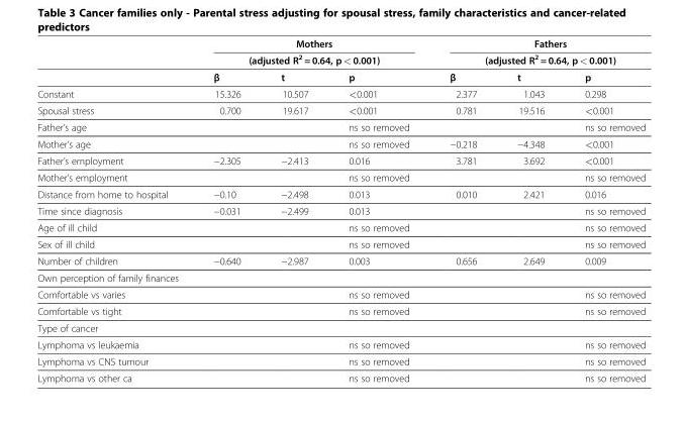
<table><thead><tr><td rowspan="3"></td><td rowspan="2" colspan="3">Mothers (adjusted R<sup>2</sup> = 0.64, p &lt; 0.001)</td><td rowspan="2" colspan="3">Fathers (adjusted R<sup>2</sup> = 0.64, p &lt; 0.001)</td></tr><tr></tr><tr><td>β</td><td>t</td><td>p</td><td>β</td><td>t</td><td>p</td></tr></thead><tbody><tr><td>Constant</td><td>15.326</td><td>10.507</td><td>&lt;0.001</td><td>2.377</td><td>1.043</td><td>0.298</td></tr><tr><td>Spousal stress</td><td>0.700</td><td>19.617</td><td>&lt;0.001</td><td>0.781</td><td>19.516</td><td>&lt;0.001</td></tr><tr><td>Father’s age</td><td></td><td></td><td>ns so removed</td><td></td><td></td><td>ns so removed</td></tr><tr><td>Mother’s age</td><td></td><td></td><td>ns so removed</td><td>−0.218</td><td>−4.348</td><td>&lt;0.001</td></tr><tr><td>Father’s employment</td><td>−2.305</td><td>−2.413</td><td>0.016</td><td>3.781</td><td>3.692</td><td>&lt;0.001</td></tr><tr><td>Mother’s employment</td><td></td><td></td><td>ns so removed</td><td></td><td></td><td>ns so removed</td></tr><tr><td>Distance from home to hospital</td><td>−0.10</td><td>−2.498</td><td>0.013</td><td>0.010</td><td>2.421</td><td>0.016</td></tr><tr><td>Time since diagnosis</td><td>−0.031</td><td>−2.499</td><td>0.013</td><td></td><td></td><td>ns so removed</td></tr><tr><td>Age of ill child</td><td></td><td></td><td>ns so removed</td><td></td><td></td><td>ns so removed</td></tr><tr><td>Sex of ill child</td><td></td><td></td><td>ns so removed</td><td></td><td></td><td>ns so removed</td></tr><tr><td>Number of children</td><td>−0.640</td><td>−2.987</td><td>0.003</td><td>0.656</td><td>2.649</td><td>0.009</td></tr><tr><td colspan="7">Own perception of family finances</td></tr><tr><td>Comfortable vs varies</td><td></td><td></td><td>ns so removed</td><td></td><td></td><td>ns so removed</td></tr><tr><td>Comfortable vs tight</td><td></td><td></td><td>ns so removed</td><td></td><td></td><td>ns so removed</td></tr><tr><td colspan="7">Type of cancer</td></tr><tr><td>Lymphoma vs leukaemia</td><td></td><td></td><td>ns so removed</td><td></td><td></td><td>ns so removed</td></tr><tr><td>Lymphoma vs CNS tumour</td><td></td><td></td><td>ns so removed</td><td></td><td></td><td>ns so removed</td></tr><tr><td>Lymphoma vs other ca</td><td></td><td></td><td>ns so removed</td><td></td><td></td><td>ns so removed</td></tr></tbody></table>